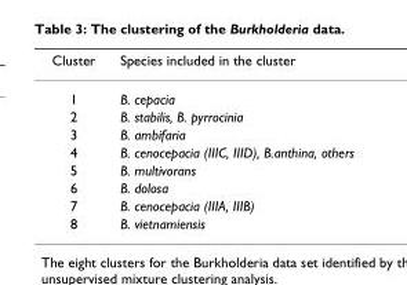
<table><thead><tr><td>Cluster</td><td>Species included in the cluster</td></tr></thead><tbody><tr><td>1</td><td>B. cepacia</td></tr><tr><td>2</td><td>B. stabilis, B. pyrrocinia</td></tr><tr><td>3</td><td>B. ambifaria</td></tr><tr><td>4</td><td>B. cenocepacia (IIIC, IIID), B.anthina, others</td></tr><tr><td>5</td><td>B. multivorans</td></tr><tr><td>6</td><td>B. dolosa</td></tr><tr><td>7</td><td>B. cenocepacia (IIIA, IIIB)</td></tr><tr><td>8</td><td>B. vietnamiensis</td></tr></tbody></table>